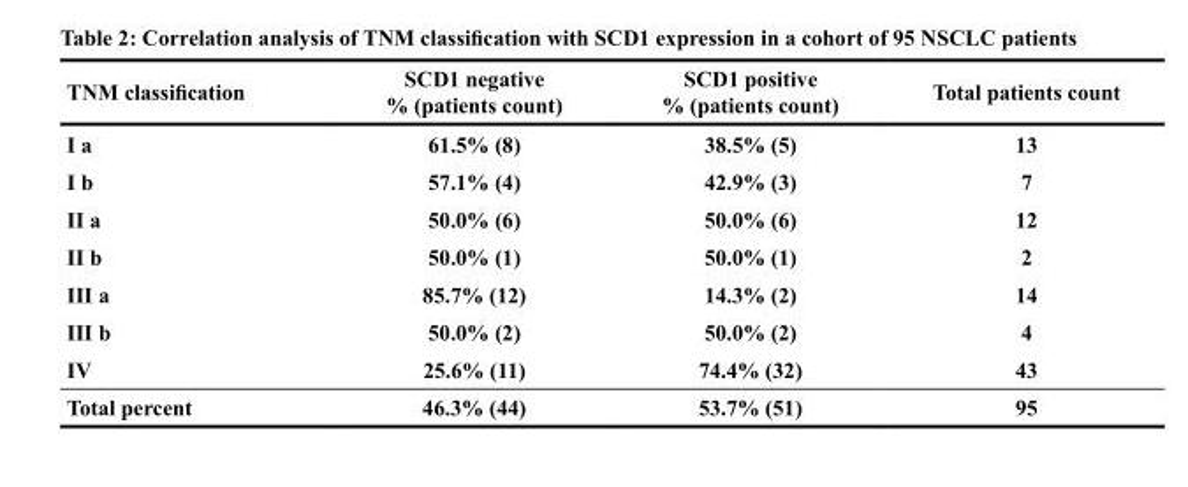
<table><thead><tr><td>TNM classification</td><td>SCD1 negative % (patients count)</td><td>SCD1 positive % (patients count)</td><td>Total patients count</td></tr></thead><tbody><tr><td>I a</td><td>61.5% (8)</td><td>38.5% (5)</td><td>13</td></tr><tr><td>I b</td><td>57.1% (4)</td><td>42.9% (3)</td><td>7</td></tr><tr><td>II a</td><td>50.0% (6)</td><td>50.0% (6)</td><td>12</td></tr><tr><td>II b</td><td>50.0% (1)</td><td>50.0% (1)</td><td>2</td></tr><tr><td>III a</td><td>85.7% (12)</td><td>14.3% (2)</td><td>14</td></tr><tr><td>III b</td><td>50.0% (2)</td><td>50.0% (2)</td><td>4</td></tr><tr><td>IV</td><td>25.6% (11)</td><td>74.4% (32)</td><td>43</td></tr><tr><td>Total percent</td><td>46.3% (44)</td><td>53.7% (51)</td><td>95</td></tr></tbody></table>